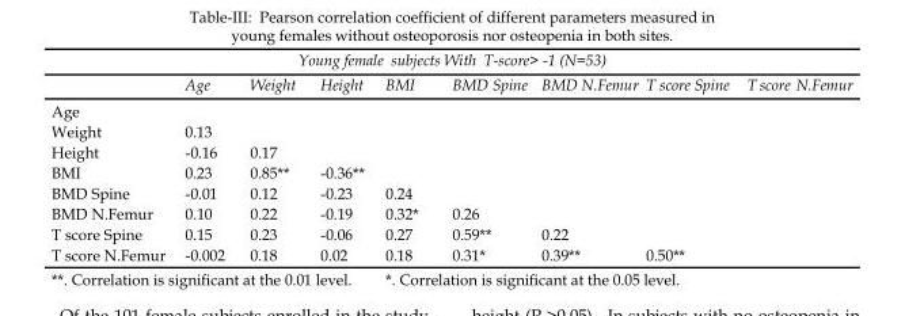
<table><thead><tr><td colspan="9">Young female subjects With T-score&gt; -1 (N=53)</td></tr><tr><td></td><td>Age</td><td>Weight</td><td>Height</td><td>BMI</td><td>BMD Spine</td><td>BMD N.Femur</td><td>T score Spine</td><td>T score N.Femur</td></tr></thead><tbody><tr><td colspan="9">Age</td></tr><tr><td>Weight</td><td>0.13</td><td></td><td></td><td></td><td></td><td></td><td></td><td></td></tr><tr><td>Height</td><td>-0.16</td><td>0.17</td><td></td><td></td><td></td><td></td><td></td><td></td></tr><tr><td>BMI</td><td>0.23</td><td>0.85**</td><td>-0.36**</td><td></td><td></td><td></td><td></td><td></td></tr><tr><td>BMD Spine</td><td>-0.01</td><td>0.12</td><td>-0.23</td><td>0.24</td><td></td><td></td><td></td><td></td></tr><tr><td>BMD N.Femur</td><td>0.10</td><td>0.22</td><td>-0.19</td><td>0.32*</td><td>0.26</td><td></td><td></td><td></td></tr><tr><td>T score Spine</td><td>0.15</td><td>0.23</td><td>-0.06</td><td>0.27</td><td>0.59**</td><td>0.22</td><td></td><td></td></tr><tr><td>T score N.Femur</td><td>-0.002</td><td>0.18</td><td>0.02</td><td>0.18</td><td>0.31*</td><td>0.39**</td><td>0.50**</td><td></td></tr></tbody></table>